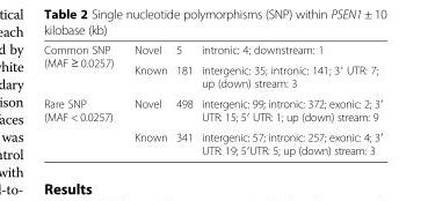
<table><tbody><tr><td rowspan="2">Common SNP (MAF ≥ 0.0257)</td><td>Novel</td><td>5</td><td>intronic: 4; downstream: 1</td></tr><tr><td>Known</td><td>181</td><td>intergenic: 35; intronic: 141; 3′ UTR: 7; up (down) stream: 3</td></tr><tr><td rowspan="2">Rare SNP (MAF &lt; 0.0257)</td><td>Novel</td><td>498</td><td>intergenic: 99; intronic: 372; exonic: 2; 3′ UTR: 15; 5′ UTR: 1; up (down) stream: 9</td></tr><tr><td>Known</td><td>341</td><td>intergenic: 57; intronic: 257; exonic: 4; 3′ UTR: 19; 5′UTR: 5; up (down) stream: 3</td></tr></tbody></table>